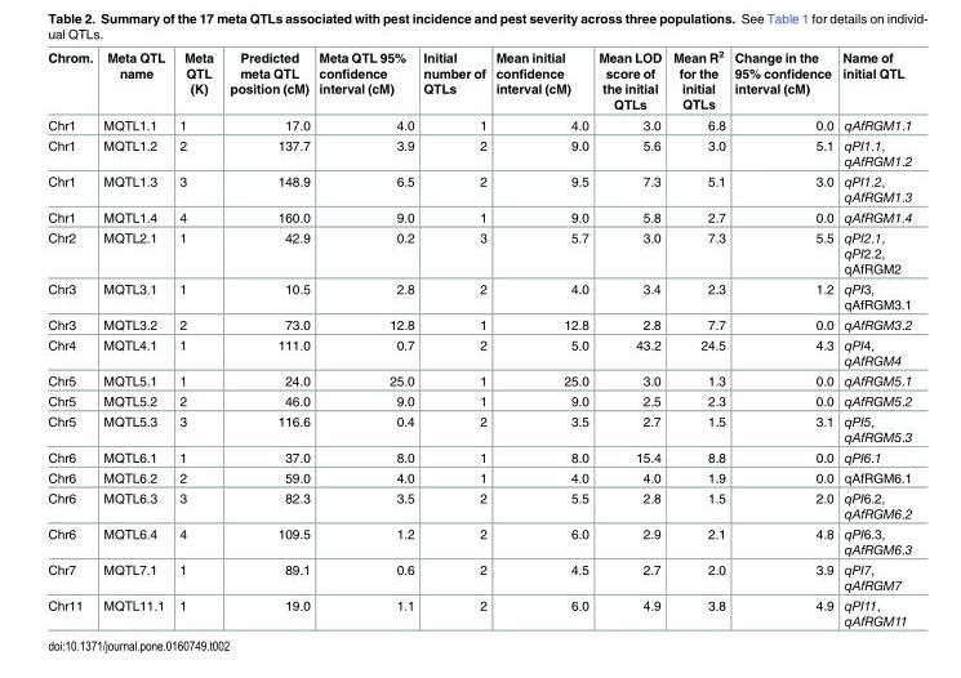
<table><thead><tr><td>Chrom.</td><td>Meta QTL name</td><td>Meta QTL (K)</td><td>Predicted meta QTL position (cM)</td><td>Meta QTL 95% confidence interval (cM)</td><td>Initial number of QTLs</td><td>Mean initial confidence interval (cM)</td><td>Mean LOD score of the initial QTLs</td><td>Mean R<sup>2</sup> for the initial QTLs</td><td>Change in the 95% confidence interval (cM)</td><td>Name of initial QTL</td></tr></thead><tbody><tr><td>Chr1</td><td>MQTL1.1</td><td>1</td><td>17.0</td><td>4.0</td><td>1</td><td>4.0</td><td>3.0</td><td>6.8</td><td>0.0</td><td>qAfRGM1.1</td></tr><tr><td>Chr1</td><td>MQTL1.2</td><td>2</td><td>137.7</td><td>3.9</td><td>2</td><td>9.0</td><td>5.6</td><td>3.0</td><td>5.1</td><td>qPI1.1, qAfRGM1.2</td></tr><tr><td>Chr1</td><td>MQTL1.3</td><td>3</td><td>148.9</td><td>6.5</td><td>2</td><td>9.5</td><td>7.3</td><td>5.1</td><td>3.0</td><td>qPI1.2, qAfRGM1.3</td></tr><tr><td>Chr1</td><td>MQTL1.4</td><td>4</td><td>160.0</td><td>9.0</td><td>1</td><td>9.0</td><td>5.8</td><td>2.7</td><td>0.0</td><td>qAfRGM1.4</td></tr><tr><td>Chr2</td><td>MQTL2.1</td><td>1</td><td>42.9</td><td>0.2</td><td>3</td><td>5.7</td><td>3.0</td><td>7.3</td><td>5.5</td><td>qPI2.1, qPI2.2, qAfRGM2</td></tr><tr><td>Chr3</td><td>MQTL3.1</td><td>1</td><td>10.5</td><td>2.8</td><td>2</td><td>4.0</td><td>3.4</td><td>2.3</td><td>1.2</td><td>qPI3, qAfRGM3.1</td></tr><tr><td>Chr3</td><td>MQTL3.2</td><td>2</td><td>73.0</td><td>12.8</td><td>1</td><td>12.8</td><td>2.8</td><td>7.7</td><td>0.0</td><td>qAfRGM3.2</td></tr><tr><td>Chr4</td><td>MQTL4.1</td><td>1</td><td>111.0</td><td>0.7</td><td>2</td><td>5.0</td><td>43.2</td><td>24.5</td><td>4.3</td><td>qPI4, qAfRGM4</td></tr><tr><td>Chr5</td><td>MQTL5.1</td><td>1</td><td>24.0</td><td>25.0</td><td>1</td><td>25.0</td><td>3.0</td><td>1.3</td><td>0.0</td><td>qAfRGM5.1</td></tr><tr><td>Chr5</td><td>MQTL5.2</td><td>2</td><td>46.0</td><td>9.0</td><td>1</td><td>9.0</td><td>2.5</td><td>2.3</td><td>0.0</td><td>qAfRGM5.2</td></tr><tr><td>Chr5</td><td>MQTL5.3</td><td>3</td><td>116.6</td><td>0.4</td><td>2</td><td>3.5</td><td>2.7</td><td>1.5</td><td>3.1</td><td>qPI5, qAfRGM5.3</td></tr><tr><td>Chr6</td><td>MQTL6.1</td><td>1</td><td>37.0</td><td>8.0</td><td>1</td><td>8.0</td><td>15.4</td><td>8.8</td><td>0.0</td><td>qPI6.1</td></tr><tr><td>Chr6</td><td>MQTL6.2</td><td>2</td><td>59.0</td><td>4.0</td><td>1</td><td>4.0</td><td>4.0</td><td>1.9</td><td>0.0</td><td>qAfRGM6.1</td></tr><tr><td>Chr6</td><td>MQTL6.3</td><td>3</td><td>82.3</td><td>3.5</td><td>2</td><td>5.5</td><td>2.8</td><td>1.5</td><td>2.0</td><td>qPI6.2, qAfRGM6.2</td></tr><tr><td>Chr6</td><td>MQTL6.4</td><td>4</td><td>109.5</td><td>1.2</td><td>2</td><td>6.0</td><td>2.9</td><td>2.1</td><td>4.8</td><td>qPI6.3, qAfRGM6.3</td></tr><tr><td>Chr7</td><td>MQTL7.1</td><td>1</td><td>89.1</td><td>0.6</td><td>2</td><td>4.5</td><td>2.7</td><td>2.0</td><td>3.9</td><td>qPI7, qAfRGM7</td></tr><tr><td>Chr11</td><td>MQTL11.1</td><td>1</td><td>19.0</td><td>1.1</td><td>2</td><td>6.0</td><td>4.9</td><td>3.8</td><td>4.9</td><td>qPI11, qAfRGM11</td></tr></tbody></table>